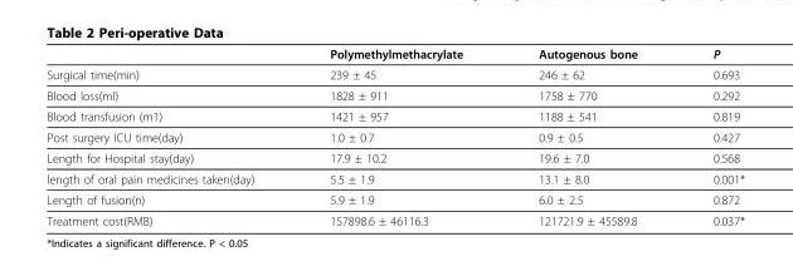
<table><thead><tr><td></td><td>Polymethylmethacrylate</td><td>Autogenous bone</td><td>P</td></tr></thead><tbody><tr><td>Surgical time(min)</td><td>239 ± 45</td><td>246 ± 62</td><td>0.693</td></tr><tr><td>Blood loss(ml)</td><td>1828 ± 911</td><td>1758 ± 770</td><td>0.292</td></tr><tr><td>Blood transfusion (m1)</td><td>1421 ± 957</td><td>1188 ± 541</td><td>0.819</td></tr><tr><td>Post surgery ICU time(day)</td><td>1.0 ± 0.7</td><td>0.9 ± 0.5</td><td>0.427</td></tr><tr><td>Length for Hospital stay(day)</td><td>17.9 ± 10.2</td><td>19.6 ± 7.0</td><td>0.568</td></tr><tr><td>length of oral pain medicines taken(day)</td><td>5.5 ± 1.9</td><td>13.1 ± 8.0</td><td>0.001*</td></tr><tr><td>Length of fusion(n)</td><td>5.9 ± 1.9</td><td>6.0 ± 2.5</td><td>0.872</td></tr><tr><td>Treatment cost(RMB)</td><td>157898.6 ± 46116.3</td><td>121721.9 ± 45589.8</td><td>0.037*</td></tr></tbody></table>